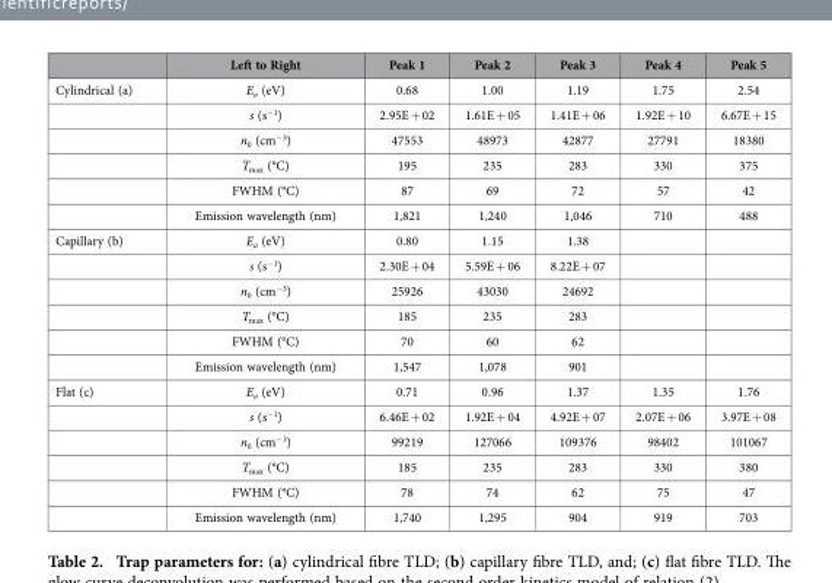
<table><thead><tr><td></td><td>Left to Right</td><td>Peak 1</td><td>Peak 2</td><td>Peak 3</td><td>Peak 4</td><td>Peak 5</td></tr></thead><tbody><tr><td rowspan="6">Cylindrical (a)</td><td>E<sub>a</sub> (eV)</td><td>0.68</td><td>1.00</td><td>1.19</td><td>1.75</td><td>2.54</td></tr><tr><td>s (s<sup>−1</sup>)</td><td>2.95E + 02</td><td>1.61E + 05</td><td>1.41E + 06</td><td>1.92E + 10</td><td>6.67E + 15</td></tr><tr><td>n<sub>0</sub> (cm<sup>−3</sup>)</td><td>47553</td><td>48973</td><td>42877</td><td>27791</td><td>18380</td></tr><tr><td>T<sub>max</sub> (°C)</td><td>195</td><td>235</td><td>283</td><td>330</td><td>375</td></tr><tr><td>FWHM (°C)</td><td>87</td><td>69</td><td>72</td><td>57</td><td>42</td></tr><tr><td>Emission wavelength (nm)</td><td>1,821</td><td>1,240</td><td>1,046</td><td>710</td><td>488</td></tr><tr><td rowspan="6">Capillary (b)</td><td>E<sub>a</sub> (eV)</td><td>0.80</td><td>1.15</td><td>1.38</td><td></td><td></td></tr><tr><td>s (s<sup>−1</sup>)</td><td>2.30E + 04</td><td>5.59E + 06</td><td>8.22E + 07</td><td></td><td></td></tr><tr><td>n<sub>0</sub> (cm<sup>−3</sup>)</td><td>25926</td><td>43030</td><td>24692</td><td></td><td></td></tr><tr><td>T<sub>max</sub> (°C)</td><td>185</td><td>235</td><td>283</td><td></td><td></td></tr><tr><td>FWHM (°C)</td><td>70</td><td>60</td><td>62</td><td></td><td></td></tr><tr><td>Emission wavelength (nm)</td><td>1,547</td><td>1,078</td><td>901</td><td></td><td></td></tr><tr><td rowspan="6">Flat (c)</td><td>E<sub>a</sub> (eV)</td><td>0.71</td><td>0.96</td><td>1.37</td><td>1.35</td><td>1.76</td></tr><tr><td>s (s<sup>−1</sup>)</td><td>6.46E + 02</td><td>1.92E + 04</td><td>4.92E + 07</td><td>2.07E + 06</td><td>3.97E + 08</td></tr><tr><td>n<sub>0</sub> (cm<sup>−3</sup>)</td><td>99219</td><td>127066</td><td>109376</td><td>98402</td><td>101067</td></tr><tr><td>T<sub>max</sub> (°C)</td><td>185</td><td>235</td><td>283</td><td>330</td><td>380</td></tr><tr><td>FWHM (°C)</td><td>78</td><td>74</td><td>62</td><td>75</td><td>47</td></tr><tr><td>Emission wavelength (nm)</td><td>1,740</td><td>1,295</td><td>904</td><td>919</td><td>703</td></tr></tbody></table>